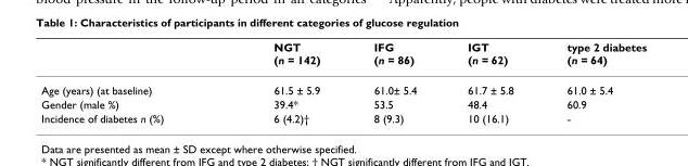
<table><thead><tr><td></td><td>NGT (n = 142)</td><td>IFG (n = 86)</td><td>IGT (n = 62)</td><td>type 2 diabetes (n = 64)</td></tr></thead><tbody><tr><td>Age (years) (at baseline)</td><td>61.5 ± 5.9</td><td>61.0± 5.4</td><td>61.7 ± 5.8</td><td>61.0 ± 5.4</td></tr><tr><td>Gender (male %)</td><td>39.4*</td><td>53.5</td><td>48.4</td><td>60.9</td></tr><tr><td>Incidence of diabetes n (%)</td><td>6 (4.2)†</td><td>8 (9.3)</td><td>10 (16.1)</td><td>-</td></tr></tbody></table>